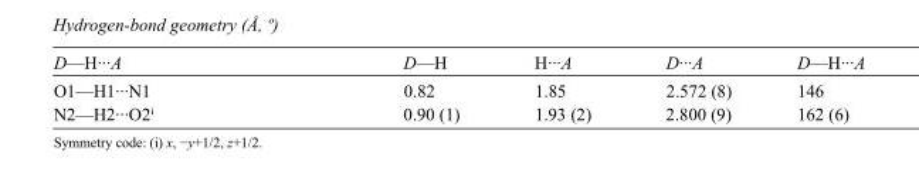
<table><tbody><tr><td>D—H···A</td><td>D—H</td><td>H···A</td><td>D···A</td><td>D—H···A</td></tr><tr><td>O1—H1···N1</td><td>0.82</td><td>1.85</td><td>2.572 (8)</td><td>146</td></tr><tr><td>N2—H2···O2<sup>i</sup></td><td>0.90 (1)</td><td>1.93 (2)</td><td>2.800 (9)</td><td>162 (6)</td></tr></tbody></table>